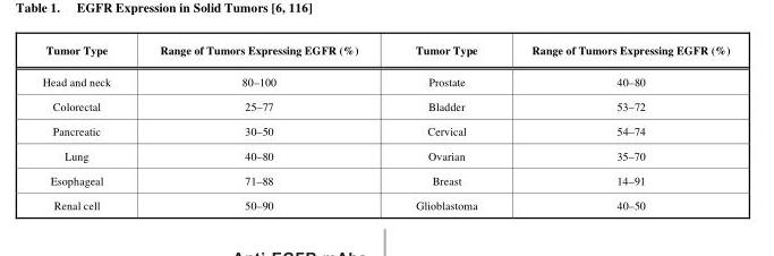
<table><thead><tr><td>Tumor Type</td><td>Range of Tumors Expressing EGFR (%)</td><td>Tumor Type</td><td>Range of Tumors Expressing EGFR (%)</td></tr></thead><tbody><tr><td>Head and neck</td><td>80–100</td><td>Prostate</td><td>40–80</td></tr><tr><td>Colorectal</td><td>25–77</td><td>Bladder</td><td>53–72</td></tr><tr><td>Pancreatic</td><td>30–50</td><td>Cervical</td><td>54–74</td></tr><tr><td>Lung</td><td>40–80</td><td>Ovarian</td><td>35–70</td></tr><tr><td>Esophageal</td><td>71–88</td><td>Breast</td><td>14–91</td></tr><tr><td>Renal cell</td><td>50–90</td><td>Glioblastoma</td><td>40–50</td></tr></tbody></table>